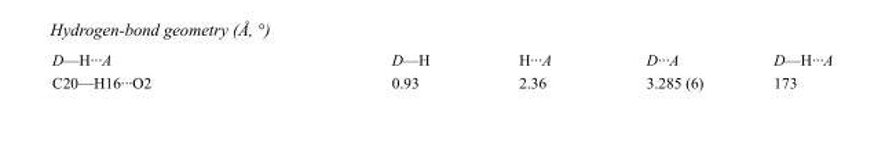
<table><tbody><tr><td>D—H···A</td><td>D—H</td><td>H···A</td><td>D···A</td><td>D—H···A</td></tr><tr><td>C20—H16···O2</td><td>0.93</td><td>2.36</td><td>3.285 (6)</td><td>173</td></tr></tbody></table>